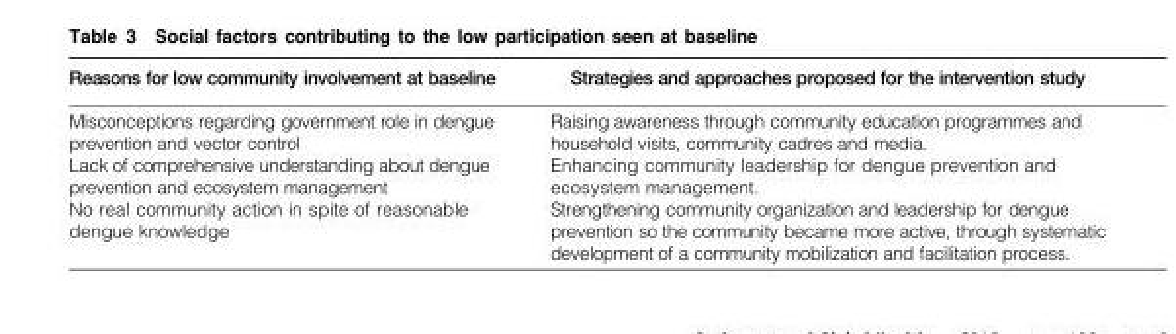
<table><thead><tr><td>Reasons for low community involvement at baseline</td><td>Strategies and approaches proposed for the intervention study</td></tr></thead><tbody><tr><td>Misconceptions regarding government role in dengue prevention and vector control</td><td>Raising awareness through community education programmes and household visits, community cadres and media.</td></tr><tr><td>Lack of comprehensive understanding about dengue prevention and ecosystem management</td><td>Enhancing community leadership for dengue prevention and ecosystem management.</td></tr><tr><td>No real community action in spite of reasonable dengue knowledge</td><td>Strengthening community organization and leadership for dengue prevention so the community became more active, through systematic development of a community mobilization and facilitation process.</td></tr></tbody></table>